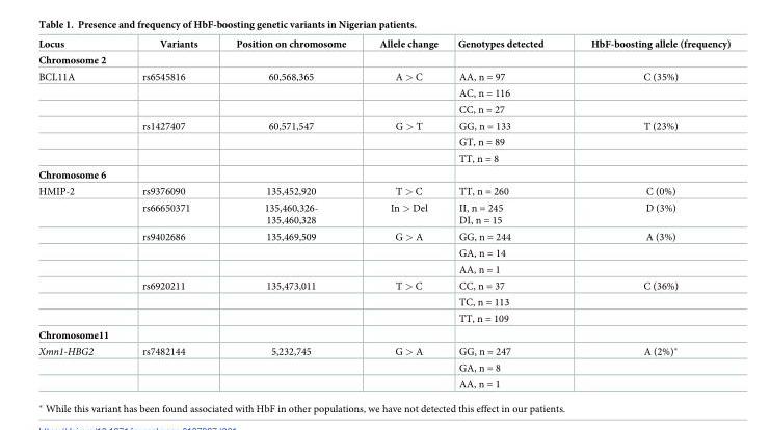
<table><thead><tr><td>Locus</td><td>Variants</td><td>Position on chromosome</td><td>Allele change</td><td>Genotypes detected</td><td>HbF-boosting allele (frequency)</td></tr></thead><tbody><tr><td colspan="6">Chromosome 2</td></tr><tr><td rowspan="6">BCL11A</td><td>rs6545816</td><td>60,568,365</td><td>A &gt; C</td><td>AA, n = 97</td><td>C (35%)</td></tr><tr><td></td><td></td><td></td><td>AC, n = 116</td><td></td></tr><tr><td></td><td></td><td></td><td>CC, n = 27</td><td></td></tr><tr><td>rs1427407</td><td>60,571,547</td><td>G &gt; T</td><td>GG, n = 133</td><td>T (23%)</td></tr><tr><td></td><td></td><td></td><td>GT, n = 89</td><td></td></tr><tr><td></td><td></td><td></td><td>TT, n = 8</td><td></td></tr><tr><td colspan="6">Chromosome 6</td></tr><tr><td rowspan="8">HMIP-2</td><td>rs9376090</td><td>135,452,920</td><td>T &gt; C</td><td>TT, n = 260</td><td>C (0%)</td></tr><tr><td>rs66650371</td><td>135,460,326- 135,460,328</td><td>In &gt; Del</td><td>II, n = 245 DI, n = 15</td><td>D (3%)</td></tr><tr><td>rs9402686</td><td>135,469,509</td><td>G &gt; A</td><td>GG, n = 244</td><td>A (3%)</td></tr><tr><td></td><td></td><td></td><td>GA, n = 14</td><td></td></tr><tr><td></td><td></td><td></td><td>AA, n = 1</td><td></td></tr><tr><td>rs6920211</td><td>135,473,011</td><td>T &gt; C</td><td>CC, n = 37</td><td>C (36%)</td></tr><tr><td></td><td></td><td></td><td>TC, n = 113</td><td></td></tr><tr><td></td><td></td><td></td><td>TT, n = 109</td><td></td></tr><tr><td colspan="6">Chromosome11</td></tr><tr><td rowspan="3">Xmn1-HBG2</td><td>rs7482144</td><td>5,232,745</td><td>G &gt; A</td><td>GG, n = 247</td><td>A (2%)*</td></tr><tr><td></td><td></td><td></td><td>GA, n = 8</td><td></td></tr><tr><td></td><td></td><td></td><td>AA, n = 1</td><td></td></tr></tbody></table>